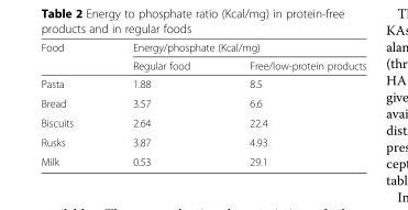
<table><thead><tr><td rowspan="2">Food</td><td colspan="2">Energy/phosphate (Kcal/mg)</td></tr><tr><td>Regular food</td><td>Free/low-protein products</td></tr></thead><tbody><tr><td>Pasta</td><td>1.88</td><td>8.5</td></tr><tr><td>Bread</td><td>3.57</td><td>6.6</td></tr><tr><td>Biscuits</td><td>2.64</td><td>22.4</td></tr><tr><td>Rusks</td><td>3.87</td><td>4.93</td></tr><tr><td>Milk</td><td>0.53</td><td>29.1</td></tr></tbody></table>